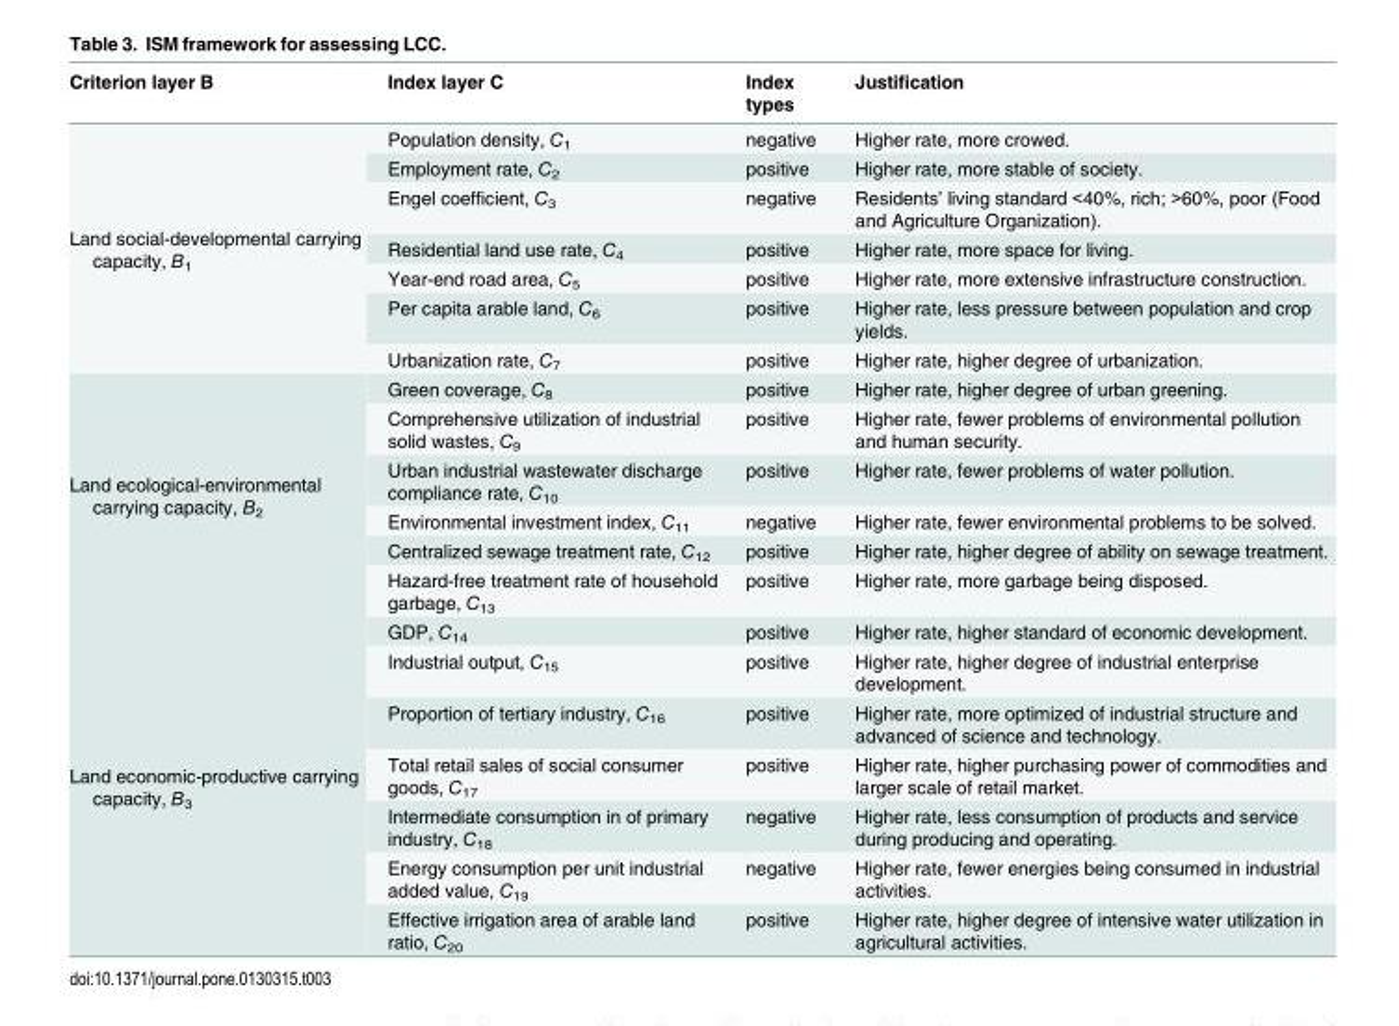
<table><thead><tr><td>Criterion layer B</td><td>Index layer C</td><td>Index types</td><td>Justification</td></tr></thead><tbody><tr><td rowspan="7">Land social-developmental carrying capacity, B<sub>1</sub></td><td>Population density, C<sub>1</sub></td><td>negative</td><td>Higher rate, more crowed.</td></tr><tr><td>Employment rate, C<sub>2</sub></td><td>positive</td><td>Higher rate, more stable of society.</td></tr><tr><td>Engel coefficient, C<sub>3</sub></td><td>negative</td><td>Residents’ living standard &lt;40%, rich; &gt;60%, poor (Food and Agriculture Organization).</td></tr><tr><td>Residential land use rate, C<sub>4</sub></td><td>positive</td><td>Higher rate, more space for living.</td></tr><tr><td>Year-end road area, C<sub>5</sub></td><td>positive</td><td>Higher rate, more extensive infrastructure construction.</td></tr><tr><td>Per capita arable land, C<sub>6</sub></td><td>positive</td><td>Higher rate, less pressure between population and crop yields.</td></tr><tr><td>Urbanization rate, C<sub>7</sub></td><td>positive</td><td>Higher rate, higher degree of urbanization.</td></tr><tr><td rowspan="6">Land ecological-environmental carrying capacity, B<sub>2</sub></td><td>Green coverage, C<sub>8</sub></td><td>positive</td><td>Higher rate, higher degree of urban greening.</td></tr><tr><td>Comprehensive utilization of industrial solid wastes, C<sub>9</sub></td><td>positive</td><td>Higher rate, fewer problems of environmental pollution and human security.</td></tr><tr><td>Urban industrial wastewater discharge compliance rate, C<sub>10</sub></td><td>positive</td><td>Higher rate, fewer problems of water pollution.</td></tr><tr><td>Environmental investment index, C<sub>11</sub></td><td>negative</td><td>Higher rate, fewer environmental problems to be solved.</td></tr><tr><td>Centralized sewage treatment rate, C<sub>12</sub></td><td>positive</td><td>Higher rate, higher degree of ability on sewage treatment.</td></tr><tr><td>Hazard-free treatment rate of household garbage, C<sub>13</sub></td><td>positive</td><td>Higher rate, more garbage being disposed.</td></tr><tr><td rowspan="7">Land economic-productive carrying capacity, B<sub>3</sub></td><td>GDP, C<sub>14</sub></td><td>positive</td><td>Higher rate, higher standard of economic development.</td></tr><tr><td>Industrial output, C<sub>15</sub></td><td>positive</td><td>Higher rate, higher degree of industrial enterprise development.</td></tr><tr><td>Proportion of tertiary industry, C<sub>16</sub></td><td>positive</td><td>Higher rate, more optimized of industrial structure and advanced of science and technology.</td></tr><tr><td>Total retail sales of social consumer goods, C<sub>17</sub></td><td>positive</td><td>Higher rate, higher purchasing power of commodities and larger scale of retail market.</td></tr><tr><td>Intermediate consumption in of primary industry, C<sub>18</sub></td><td>negative</td><td>Higher rate, less consumption of products and service during producing and operating.</td></tr><tr><td>Energy consumption per unit industrial added value, C<sub>19</sub></td><td>negative</td><td>Higher rate, fewer energies being consumed in industrial activities.</td></tr><tr><td>Effective irrigation area of arable land ratio, C<sub>20</sub></td><td>positive</td><td>Higher rate, higher degree of intensive water utilization in agricultural activities.</td></tr></tbody></table>